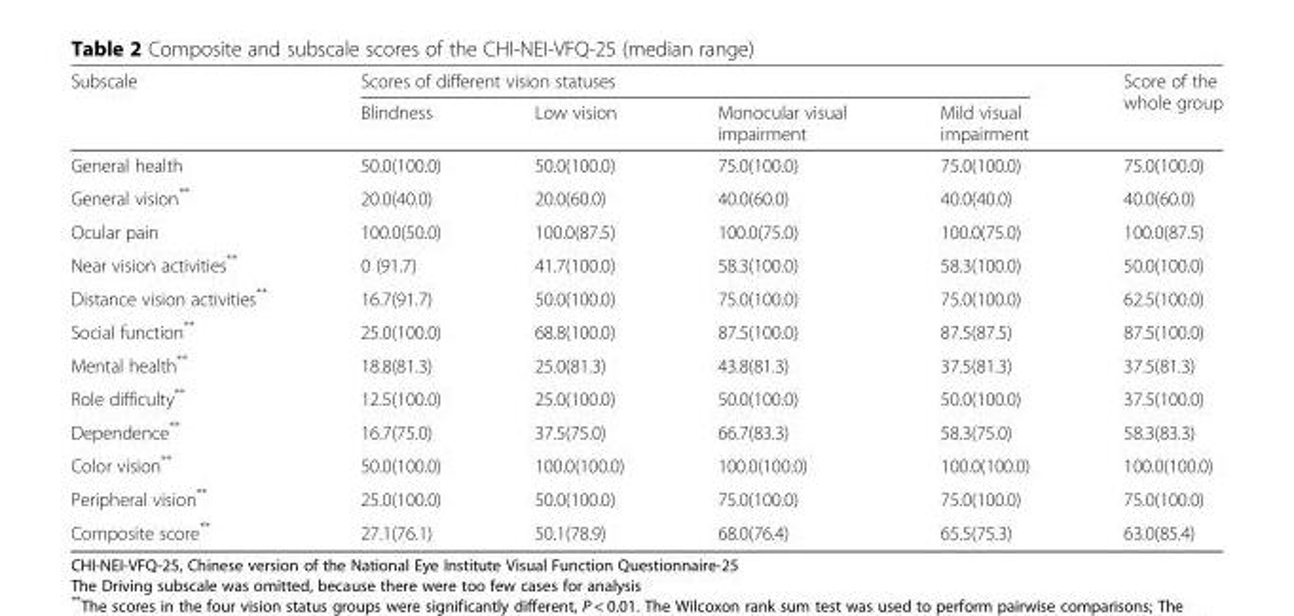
<table><thead><tr><td rowspan="2">Subscale</td><td colspan="4">Scores of different vision statuses</td><td rowspan="2">Score of the whole group</td></tr><tr><td>Blindness</td><td>Low vision</td><td>Monocular visual impairment</td><td>Mild visual impairment</td></tr></thead><tbody><tr><td>General health</td><td>50.0(100.0)</td><td>50.0(100.0)</td><td>75.0(100.0)</td><td>75.0(100.0)</td><td>75.0(100.0)</td></tr><tr><td>General vision**</td><td>20.0(40.0)</td><td>20.0(60.0)</td><td>40.0(60.0)</td><td>40.0(40.0)</td><td>40.0(60.0)</td></tr><tr><td>Ocular pain</td><td>100.0(50.0)</td><td>100.0(87.5)</td><td>100.0(75.0)</td><td>100.0(75.0)</td><td>100.0(87.5)</td></tr><tr><td>Near vision activities**</td><td>0 (91.7)</td><td>41.7(100.0)</td><td>58.3(100.0)</td><td>58.3(100.0)</td><td>50.0(100.0)</td></tr><tr><td>Distance vision activities**</td><td>16.7(91.7)</td><td>50.0(100.0)</td><td>75.0(100.0)</td><td>75.0(100.0)</td><td>62.5(100.0)</td></tr><tr><td>Social function**</td><td>25.0(100.0)</td><td>68.8(100.0)</td><td>87.5(100.0)</td><td>87.5(87.5)</td><td>87.5(100.0)</td></tr><tr><td>Mental health**</td><td>18.8(81.3)</td><td>25.0(81.3)</td><td>43.8(81.3)</td><td>37.5(81.3)</td><td>37.5(81.3)</td></tr><tr><td>Role difficulty**</td><td>12.5(100.0)</td><td>25.0(100.0)</td><td>50.0(100.0)</td><td>50.0(100.0)</td><td>37.5(100.0)</td></tr><tr><td>Dependence**</td><td>16.7(75.0)</td><td>37.5(75.0)</td><td>66.7(83.3)</td><td>58.3(75.0)</td><td>58.3(83.3)</td></tr><tr><td>Color vision**</td><td>50.0(100.0)</td><td>100.0(100.0)</td><td>100.0(100.0)</td><td>100.0(100.0)</td><td>100.0(100.0)</td></tr><tr><td>Peripheral vision**</td><td>25.0(100.0)</td><td>50.0(100.0)</td><td>75.0(100.0)</td><td>75.0(100.0)</td><td>75.0(100.0)</td></tr><tr><td>Composite score**</td><td>27.1(76.1)</td><td>50.1(78.9)</td><td>68.0(76.4)</td><td>65.5(75.3)</td><td>63.0(85.4)</td></tr></tbody></table>